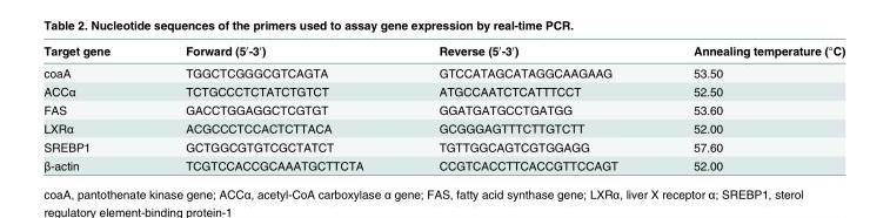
<table><thead><tr><td>Target gene</td><td>Forward (5′-3′)</td><td>Reverse (5′-3′)</td><td>Annealing temperature (°C)</td></tr></thead><tbody><tr><td>coaA</td><td>TGGCTCGGGCGTCAGTA</td><td>GTCCATAGCATAGGCAAGAAG</td><td>53.50</td></tr><tr><td>ACCα</td><td>TCTGCCCTCTATCTGTCT</td><td>ATGCCAATCTCATTTCCT</td><td>52.50</td></tr><tr><td>FAS</td><td>GACCTGGAGGCTCGTGT</td><td>GGATGATGCCTGATGG</td><td>53.60</td></tr><tr><td>LXRα</td><td>ACGCCCTCCACTCTTACA</td><td>GCGGGAGTTTCTTGTCTT</td><td>52.00</td></tr><tr><td>SREBP1</td><td>GCTGGCGTGTCGCTATCT</td><td>TGTTGGCAGTCGTGGAGG</td><td>57.60</td></tr><tr><td>β-actin</td><td>TCGTCCACCGCAAATGCTTCTA</td><td>CCGTCACCTTCACCGTTCCAGT</td><td>52.00</td></tr></tbody></table>